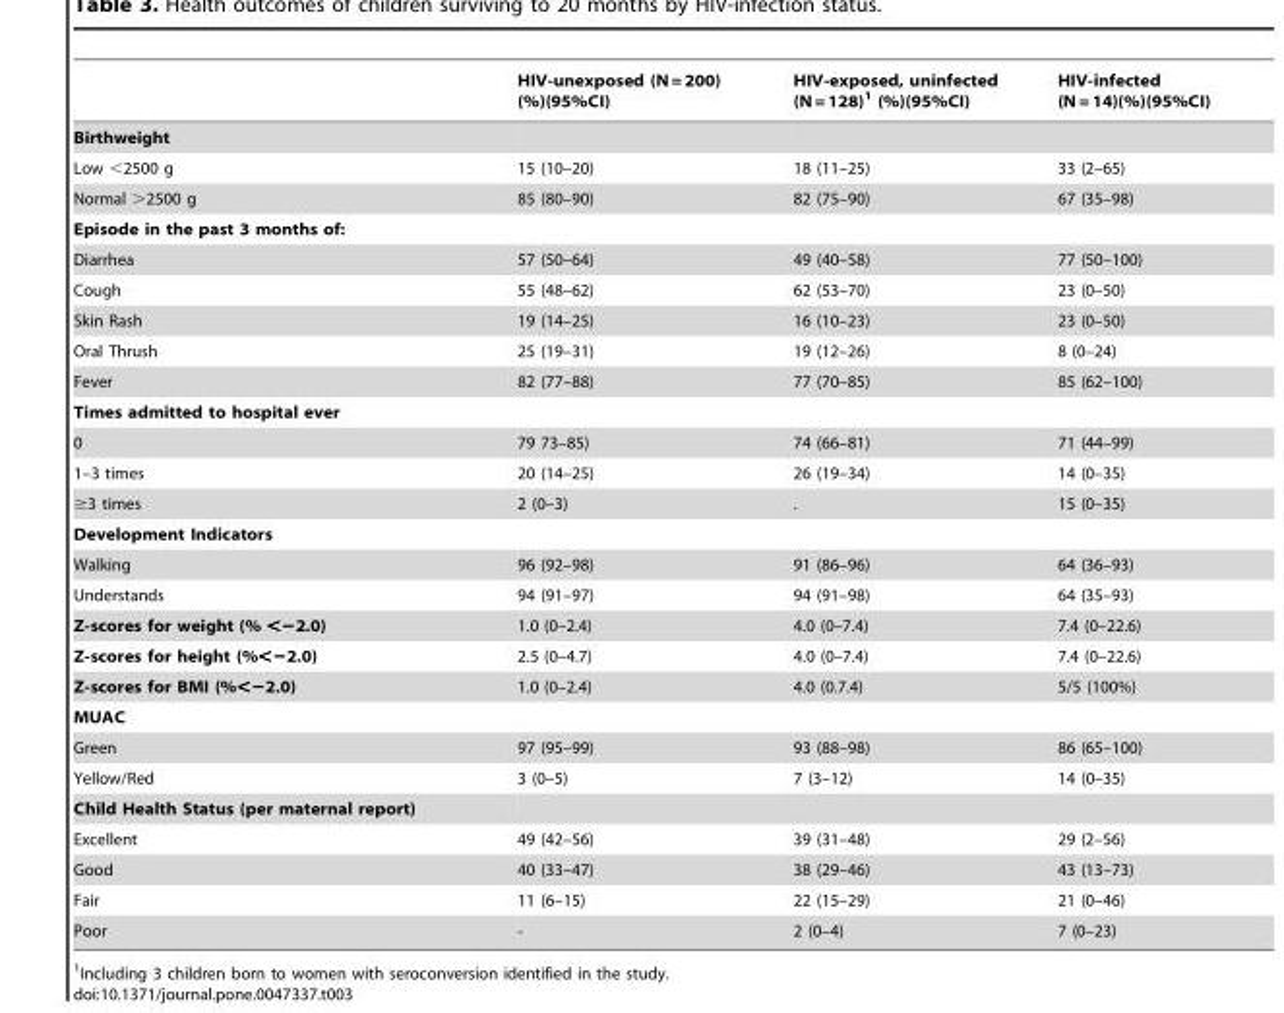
<table><thead><tr><td></td><td>HIV-unexposed (N = 200) (%)(95%CI)</td><td>HIV-exposed, uninfected (N = 128)<sup>1</sup> (%)(95%CI)</td><td>HIV-infected (N = 14)(%)(95%CI)</td></tr></thead><tbody><tr><td colspan="4">Birthweight</td></tr><tr><td>Low &lt;2500 g</td><td>15 (10–20)</td><td>18 (11–25)</td><td>33 (2–65)</td></tr><tr><td>Normal &gt;2500 g</td><td>85 (80–90)</td><td>82 (75–90)</td><td>67 (35–98)</td></tr><tr><td colspan="4">Episode in the past 3 months of:</td></tr><tr><td>Diarrhea</td><td>57 (50–64)</td><td>49 (40–58)</td><td>77 (50–100)</td></tr><tr><td>Cough</td><td>55 (48–62)</td><td>62 (53–70)</td><td>23 (0–50)</td></tr><tr><td>Skin Rash</td><td>19 (14–25)</td><td>16 (10–23)</td><td>23 (0–50)</td></tr><tr><td>Oral Thrush</td><td>25 (19–31)</td><td>19 (12–26)</td><td>8 (0–24)</td></tr><tr><td>Fever</td><td>82 (77–88)</td><td>77 (70–85)</td><td>85 (62–100)</td></tr><tr><td colspan="4">Times admitted to hospital ever</td></tr><tr><td>0</td><td>79 73–85)</td><td>74 (66–81)</td><td>71 (44–99)</td></tr><tr><td>1–3 times</td><td>20 (14–25)</td><td>26 (19–34)</td><td>14 (0–35)</td></tr><tr><td>≥3 times</td><td>2 (0–3)</td><td>.</td><td>15 (0–35)</td></tr><tr><td colspan="4">Development Indicators</td></tr><tr><td>Walking</td><td>96 (92–98)</td><td>91 (86–96)</td><td>64 (36–93)</td></tr><tr><td>Understands</td><td>94 (91–97)</td><td>94 (91–98)</td><td>64 (35–93)</td></tr><tr><td>Z-scores for weight (% &lt;−2.0)</td><td>1.0 (0–2.4)</td><td>4.0 (0–7.4)</td><td>7.4 (0–22.6)</td></tr><tr><td>Z-scores for height (%&lt;−2.0)</td><td>2.5 (0–4.7)</td><td>4.0 (0–7.4)</td><td>7.4 (0–22.6)</td></tr><tr><td>Z-scores for BMI (%&lt;−2.0)</td><td>1.0 (0–2.4)</td><td>4.0 (0.7.4)</td><td>5/5 (100%)</td></tr><tr><td colspan="4">MUAC</td></tr><tr><td>Green</td><td>97 (95–99)</td><td>93 (88–98)</td><td>86 (65–100)</td></tr><tr><td>Yellow/Red</td><td>3 (0–5)</td><td>7 (3–12)</td><td>14 (0–35)</td></tr><tr><td colspan="4">Child Health Status (per maternal report)</td></tr><tr><td>Excellent</td><td>49 (42–56)</td><td>39 (31–48)</td><td>29 (2–56)</td></tr><tr><td>Good</td><td>40 (33–47)</td><td>38 (29–46)</td><td>43 (13–73)</td></tr><tr><td>Fair</td><td>11 (6–15)</td><td>22 (15–29)</td><td>21 (0–46)</td></tr><tr><td>Poor</td><td>-</td><td>2 (0–4)</td><td>7 (0–23)</td></tr></tbody></table>